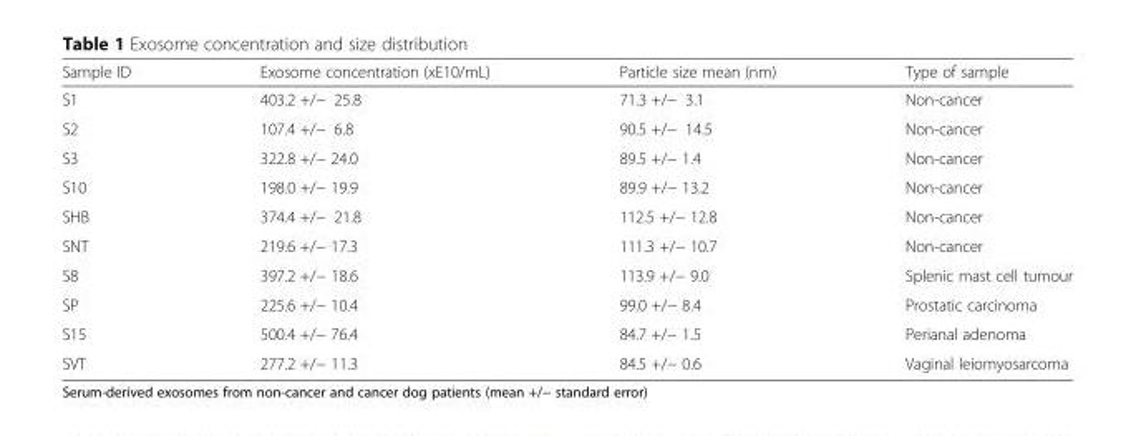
<table><thead><tr><td>Sample ID</td><td>Exosome concentration (xE10/mL)</td><td>Particle size mean (nm)</td><td>Type of sample</td></tr></thead><tbody><tr><td>S1</td><td>403.2 +/− 25.8</td><td>71.3 +/− 3.1</td><td>Non-cancer</td></tr><tr><td>S2</td><td>107.4 +/− 6.8</td><td>90.5 +/− 14.5</td><td>Non-cancer</td></tr><tr><td>S3</td><td>322.8 +/− 24.0</td><td>89.5 +/− 1.4</td><td>Non-cancer</td></tr><tr><td>S10</td><td>198.0 +/− 19.9</td><td>89.9 +/− 13.2</td><td>Non-cancer</td></tr><tr><td>SHB</td><td>374.4 +/− 21.8</td><td>112.5 +/− 12.8</td><td>Non-cancer</td></tr><tr><td>SNT</td><td>219.6 +/− 17.3</td><td>111.3 +/− 10.7</td><td>Non-cancer</td></tr><tr><td>S8</td><td>397.2 +/− 18.6</td><td>113.9 +/− 9.0</td><td>Splenic mast cell tumour</td></tr><tr><td>SP</td><td>225.6 +/− 10.4</td><td>99.0 +/− 8.4</td><td>Prostatic carcinoma</td></tr><tr><td>S15</td><td>500.4 +/− 76.4</td><td>84.7 +/− 1.5</td><td>Perianal adenoma</td></tr><tr><td>SVT</td><td>277.2 +/− 11.3</td><td>84.5 +/− 0.6</td><td>Vaginal leiomyosarcoma</td></tr></tbody></table>